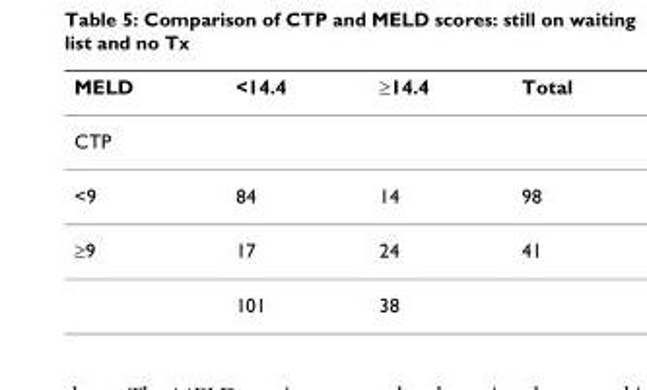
<table><thead><tr><td>MELD</td><td>&lt;14.4</td><td>≥14.4</td><td>Total</td></tr></thead><tbody><tr><td colspan="4">CTP</td></tr><tr><td>&lt;9</td><td>84</td><td>14</td><td>98</td></tr><tr><td rowspan="2">≥9</td><td>17</td><td>24</td><td>41</td></tr><tr><td>101</td><td>38</td><td></td></tr></tbody></table>